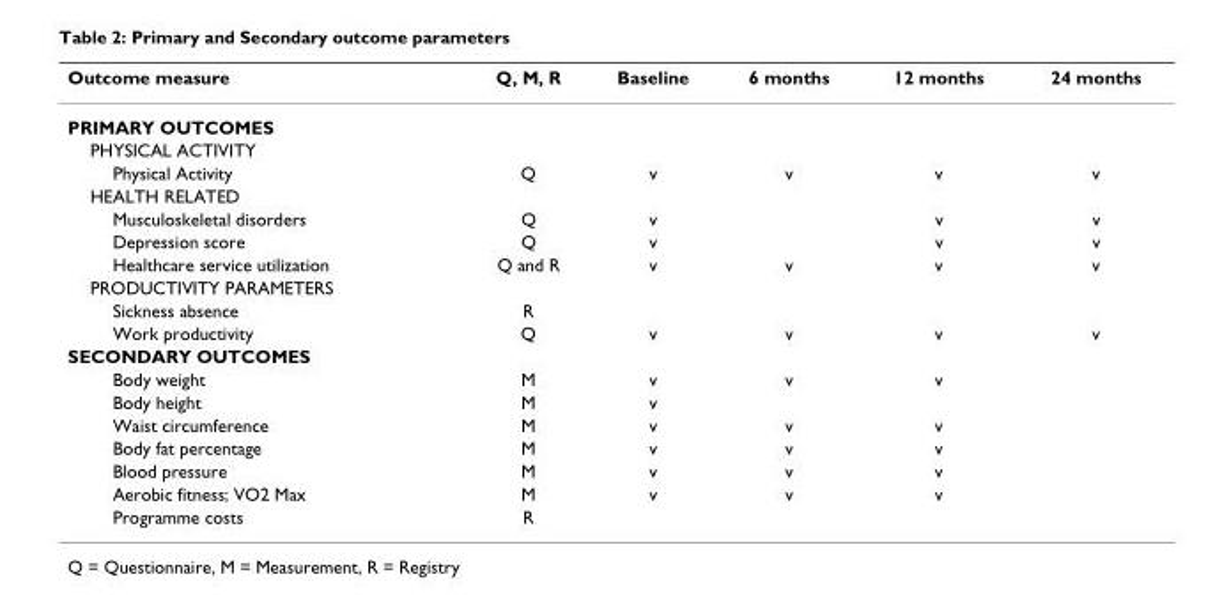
<table><thead><tr><td>Outcome measure</td><td>Q, M, R</td><td>Baseline</td><td>6 months</td><td>12 months</td><td>24 months</td></tr></thead><tbody><tr><td colspan="6">PRIMARY OUTCOMES</td></tr><tr><td colspan="6">PHYSICAL ACTIVITY</td></tr><tr><td>Physical Activity</td><td>Q</td><td>v</td><td>v</td><td>v</td><td>v</td></tr><tr><td colspan="6">HEALTH RELATED</td></tr><tr><td>Musculoskeletal disorders</td><td>Q</td><td>v</td><td></td><td>v</td><td>v</td></tr><tr><td>Depression score</td><td>Q</td><td>v</td><td></td><td>v</td><td>v</td></tr><tr><td>Healthcare service utilization</td><td>Q and R</td><td>v</td><td>v</td><td>v</td><td>v</td></tr><tr><td colspan="6">PRODUCTIVITY PARAMETERS</td></tr><tr><td>Sickness absence</td><td>R</td><td></td><td></td><td></td><td></td></tr><tr><td>Work productivity</td><td>Q</td><td>v</td><td>v</td><td>v</td><td>v</td></tr><tr><td colspan="6">SECONDARY OUTCOMES</td></tr><tr><td>Body weight</td><td>M</td><td>v</td><td>v</td><td>v</td><td></td></tr><tr><td>Body height</td><td>M</td><td>v</td><td></td><td></td><td></td></tr><tr><td>Waist circumference</td><td>M</td><td>v</td><td>v</td><td>v</td><td></td></tr><tr><td>Body fat percentage</td><td>M</td><td>v</td><td>v</td><td>v</td><td></td></tr><tr><td>Blood pressure</td><td>M</td><td>v</td><td>v</td><td>v</td><td></td></tr><tr><td>Aerobic fitness; VO2 Max</td><td>M</td><td>v</td><td>v</td><td>v</td><td></td></tr><tr><td>Programme costs</td><td>R</td><td></td><td></td><td></td><td></td></tr></tbody></table>